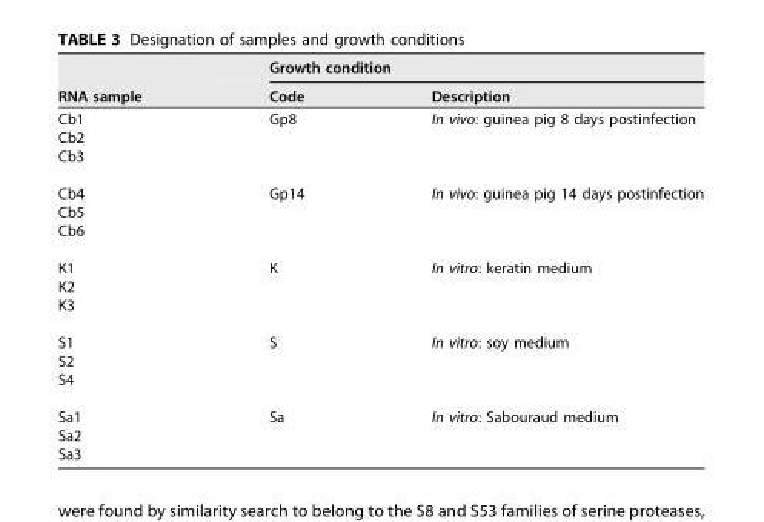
<table><thead><tr><td rowspan="2">RNA sample</td><td colspan="2">Growth condition</td></tr><tr><td>Code</td><td>Description</td></tr></thead><tbody><tr><td>Cb1</td><td>Gp8</td><td>In vivo: guinea pig 8 days postinfection</td></tr><tr><td colspan="3">Cb2</td></tr><tr><td colspan="3">Cb3</td></tr><tr><td>Cb4</td><td>Gp14</td><td>In vivo: guinea pig 14 days postinfection</td></tr><tr><td colspan="3">Cb5</td></tr><tr><td colspan="3">Cb6</td></tr><tr><td>K1</td><td>K</td><td>In vitro: keratin medium</td></tr><tr><td colspan="3">K2</td></tr><tr><td colspan="3">K3</td></tr><tr><td>S1</td><td>S</td><td>In vitro: soy medium</td></tr><tr><td colspan="3">S2</td></tr><tr><td colspan="3">S4</td></tr><tr><td>Sa1</td><td>Sa</td><td>In vitro: Sabouraud medium</td></tr><tr><td colspan="3">Sa2</td></tr><tr><td>Sa3</td><td></td><td></td></tr></tbody></table>